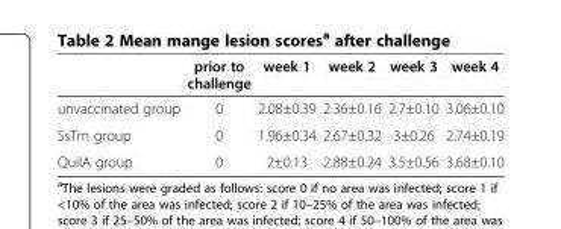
<table><thead><tr><td></td><td>prior to challenge</td><td>week 1</td><td>week 2</td><td>week 3</td><td>week 4</td></tr></thead><tbody><tr><td>unvaccinated group</td><td>0</td><td>2.08±0.39</td><td>2.36±0.16</td><td>2.7±0.10</td><td>3.06±0.10</td></tr><tr><td>SsTm group</td><td>0</td><td>1.96±0.34</td><td>2.67±0.32</td><td>3±0.26</td><td>2.74±0.19</td></tr><tr><td>QuilA group</td><td>0</td><td>2±0.13</td><td>2.88±0.24</td><td>3.5±0.56</td><td>3.68±0.10</td></tr></tbody></table>